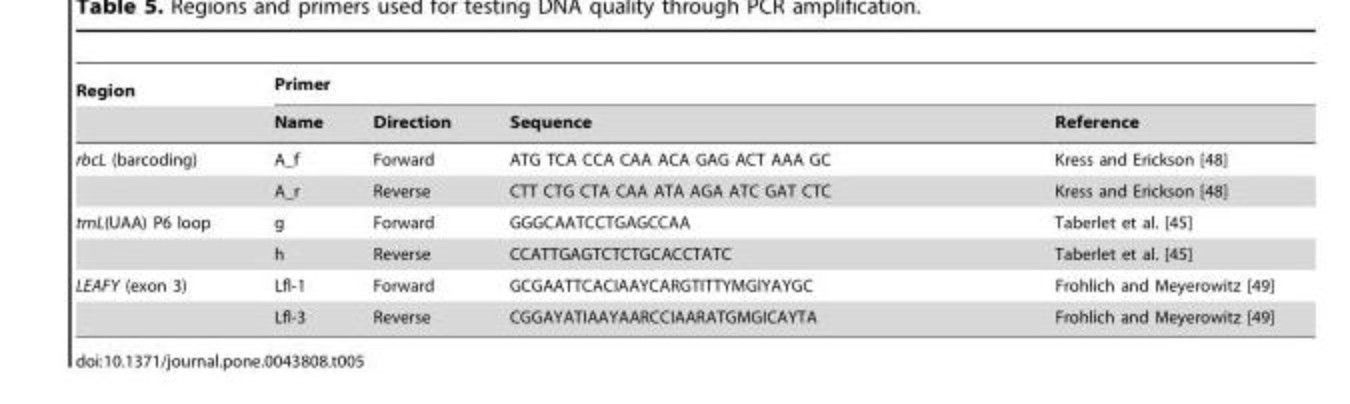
<table><thead><tr><td rowspan="2">Region</td><td colspan="4">Primer</td></tr><tr><td>Name</td><td>Direction</td><td>Sequence</td><td>Reference</td></tr></thead><tbody><tr><td rowspan="2">rbcL (barcoding)</td><td>A_f</td><td>Forward</td><td>ATG TCA CCA CAA ACA GAG ACT AAA GC</td><td>Kress and Erickson [48]</td></tr><tr><td>A_r</td><td>Reverse</td><td>CTT CTG CTA CAA ATA AGA ATC GAT CTC</td><td>Kress and Erickson [48]</td></tr><tr><td rowspan="2">trnL(UAA) P6 loop</td><td>g</td><td>Forward</td><td>GGGCAATCCTGAGCCAA</td><td>Taberlet et al. [45]</td></tr><tr><td>h</td><td>Reverse</td><td>CCATTGAGTCTCTGCACCTATC</td><td>Taberlet et al. [45]</td></tr><tr><td rowspan="2">LEAFY (exon 3)</td><td>Lfl-1</td><td>Forward</td><td>GCGAATTCACIAAYCARGTITTYMGIYAYGC</td><td>Frohlich and Meyerowitz [49]</td></tr><tr><td>Lfl-3</td><td>Reverse</td><td>CGGAYATIAAYAARCCIAARATGMGICAYTA</td><td>Frohlich and Meyerowitz [49]</td></tr></tbody></table>